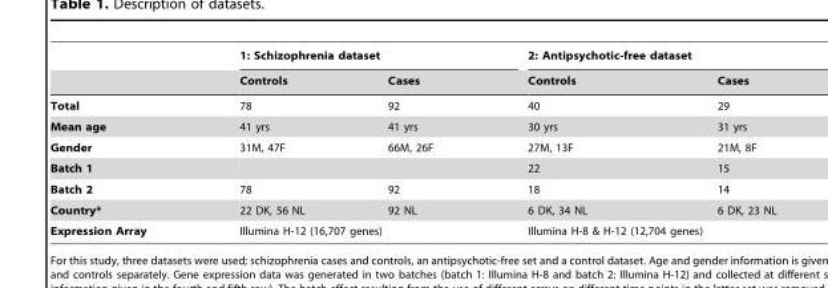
<table><thead><tr><td rowspan="2"></td><td colspan="2">1: Schizophrenia dataset</td><td colspan="2">2: Antipsychotic-free dataset</td></tr><tr><td>Controls</td><td>Cases</td><td>Controls</td><td>Cases</td></tr></thead><tbody><tr><td>Total</td><td>78</td><td>92</td><td>40</td><td>29</td></tr><tr><td>Mean age</td><td>41 yrs</td><td>41 yrs</td><td>30 yrs</td><td>31 yrs</td></tr><tr><td>Gender</td><td>31M, 47F</td><td>66M, 26F</td><td>27M, 13F</td><td>21M, 8F</td></tr><tr><td>Batch 1</td><td></td><td></td><td>22</td><td>15</td></tr><tr><td>Batch 2</td><td>78</td><td>92</td><td>18</td><td>14</td></tr><tr><td>Country*</td><td>22 DK, 56 NL</td><td>92 NL</td><td>6 DK, 34 NL</td><td>6 DK, 23 NL</td></tr><tr><td>Expression Array</td><td colspan="2">Illumina H-12 (16,707 genes)</td><td colspan="2">Illumina H-8 &amp; H-12 (12,704 genes)</td></tr></tbody></table>